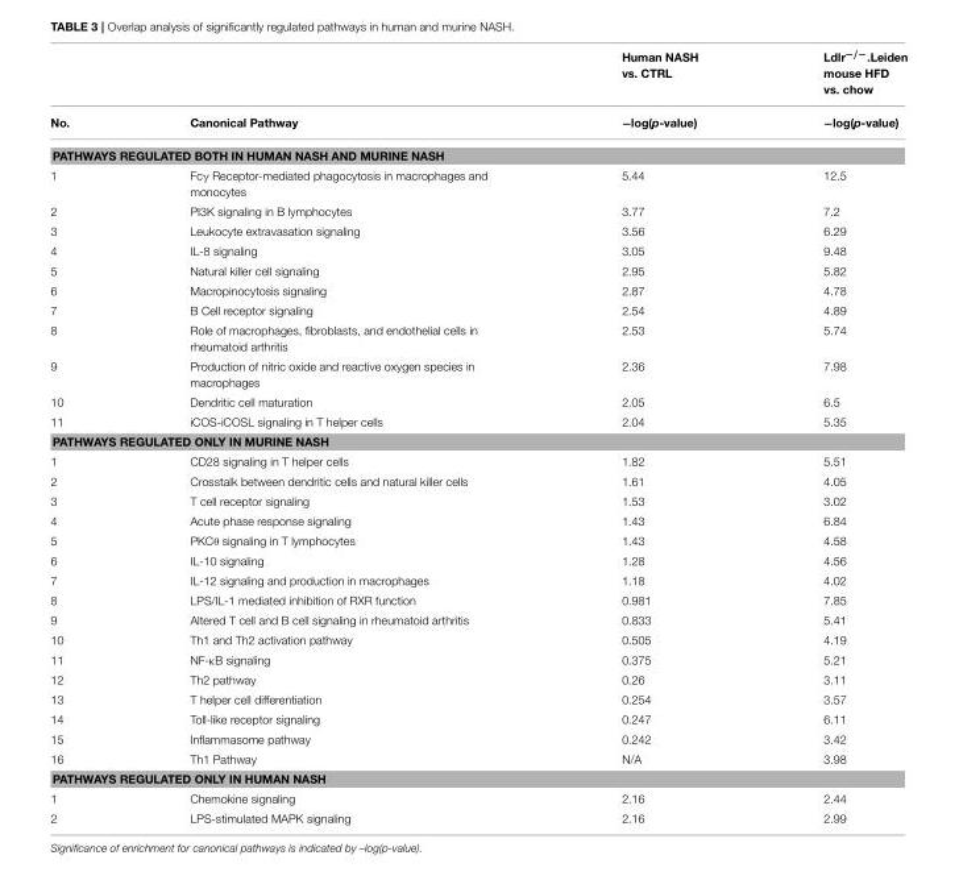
<table><thead><tr><td></td><td></td><td>Human NASH vs. CTRL</td><td>Ldlr<sup>−/−</sup>.Leiden mouse HFD vs. chow</td></tr></thead><tbody><tr><td>No.</td><td>Canonical Pathway</td><td>−log(p-value)</td><td>−log(p-value)</td></tr><tr><td colspan="4">PATHWAYS REGULATED BOTH IN HUMAN NASH AND MURINE NASH</td></tr><tr><td>1</td><td>Fcγ Receptor-mediated phagocytosis in macrophages and monocytes</td><td>5.44</td><td>12.5</td></tr><tr><td>2</td><td>PI3K signaling in B lymphocytes</td><td>3.77</td><td>7.2</td></tr><tr><td>3</td><td>Leukocyte extravasation signaling</td><td>3.56</td><td>6.29</td></tr><tr><td>4</td><td>IL-8 signaling</td><td>3.05</td><td>9.48</td></tr><tr><td>5</td><td>Natural killer cell signaling</td><td>2.95</td><td>5.82</td></tr><tr><td>6</td><td>Macropinocytosis signaling</td><td>2.87</td><td>4.78</td></tr><tr><td>7</td><td>B Cell receptor signaling</td><td>2.54</td><td>4.89</td></tr><tr><td>8</td><td>Role of macrophages, fibroblasts, and endothelial cells in rheumatoid arthritis</td><td>2.53</td><td>5.74</td></tr><tr><td>9</td><td>Production of nitric oxide and reactive oxygen species in macrophages</td><td>2.36</td><td>7.98</td></tr><tr><td>10</td><td>Dendritic cell maturation</td><td>2.05</td><td>6.5</td></tr><tr><td>11</td><td>iCOS-iCOSL signaling in T helper cells</td><td>2.04</td><td>5.35</td></tr><tr><td colspan="4">PATHWAYS REGULATED ONLY IN MURINE NASH</td></tr><tr><td>1</td><td>CD28 signaling in T helper cells</td><td>1.82</td><td>5.51</td></tr><tr><td>2</td><td>Crosstalk between dendritic cells and natural killer cells</td><td>1.61</td><td>4.05</td></tr><tr><td>3</td><td>T cell receptor signaling</td><td>1.53</td><td>3.02</td></tr><tr><td>4</td><td>Acute phase response signaling</td><td>1.43</td><td>6.84</td></tr><tr><td>5</td><td>PKCθ signaling in T lymphocytes</td><td>1.43</td><td>4.58</td></tr><tr><td>6</td><td>IL-10 signaling</td><td>1.28</td><td>4.56</td></tr><tr><td>7</td><td>IL-12 signaling and production in macrophages</td><td>1.18</td><td>4.02</td></tr><tr><td>8</td><td>LPS/IL-1 mediated inhibition of RXR function</td><td>0.981</td><td>7.85</td></tr><tr><td>9</td><td>Altered T cell and B cell signaling in rheumatoid arthritis</td><td>0.833</td><td>5.41</td></tr><tr><td>10</td><td>Th1 and Th2 activation pathway</td><td>0.505</td><td>4.19</td></tr><tr><td>11</td><td>NF-κB signaling</td><td>0.375</td><td>5.21</td></tr><tr><td>12</td><td>Th2 pathway</td><td>0.26</td><td>3.11</td></tr><tr><td>13</td><td>T helper cell differentiation</td><td>0.254</td><td>3.57</td></tr><tr><td>14</td><td>Toll-like receptor signaling</td><td>0.247</td><td>6.11</td></tr><tr><td>15</td><td>Inflammasome pathway</td><td>0.242</td><td>3.42</td></tr><tr><td>16</td><td>Th1 Pathway</td><td>N/A</td><td>3.98</td></tr><tr><td colspan="4">PATHWAYS REGULATED ONLY IN HUMAN NASH</td></tr><tr><td>1</td><td>Chemokine signaling</td><td>2.16</td><td>2.44</td></tr><tr><td>2</td><td>LPS-stimulated MAPK signaling</td><td>2.16</td><td>2.99</td></tr></tbody></table>